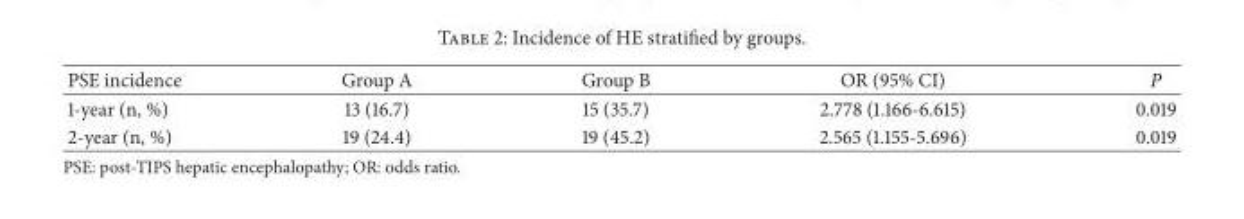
<table><thead><tr><td>PSE incidence</td><td>Group A</td><td>Group B</td><td>OR (95% CI)</td><td>P</td></tr></thead><tbody><tr><td>1-year (n, %)</td><td>13 (16.7)</td><td>15 (35.7)</td><td>2.778 (1.166-6.615)</td><td>0.019</td></tr><tr><td>2-year (n, %)</td><td>19 (24.4)</td><td>19 (45.2)</td><td>2.565 (1.155-5.696)</td><td>0.019</td></tr></tbody></table>